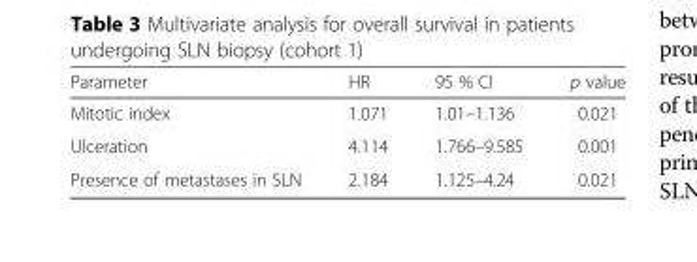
<table><thead><tr><td>Parameter</td><td>HR</td><td>95 % CI</td><td>p value</td></tr></thead><tbody><tr><td>Mitotic index</td><td>1.071</td><td>1.01–1.136</td><td>0.021</td></tr><tr><td>Ulceration</td><td>4.114</td><td>1.766–9.585</td><td>0.001</td></tr><tr><td>Presence of metastases in SLN</td><td>2.184</td><td>1.125–4.24</td><td>0.021</td></tr></tbody></table>